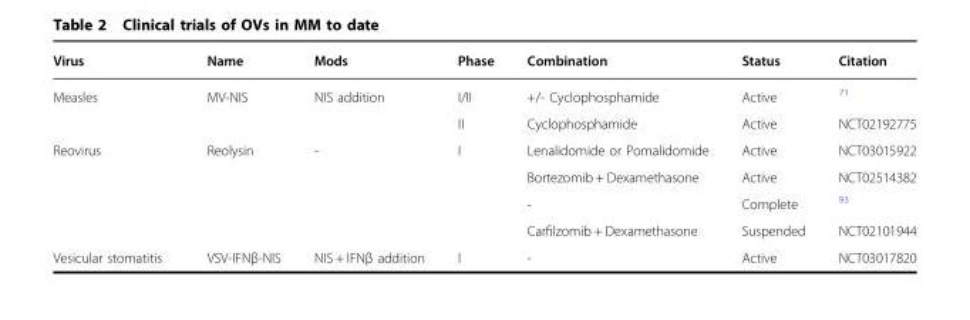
<table><thead><tr><td>Virus</td><td>Name</td><td>Mods</td><td>Phase</td><td>Combination</td><td>Status</td><td>Citation</td></tr></thead><tbody><tr><td rowspan="2">Measles</td><td>MV-NIS</td><td>NIS addition</td><td>I/II</td><td>+/- Cyclophosphamide</td><td>Active</td><td><sup>71</sup></td></tr><tr><td></td><td></td><td>II</td><td>Cyclophosphamide</td><td>Active</td><td>NCT02192775</td></tr><tr><td rowspan="4">Reovirus</td><td>Reolysin</td><td>-</td><td>I</td><td>Lenalidomide or Pomalidomide</td><td>Active</td><td>NCT03015922</td></tr><tr><td></td><td></td><td></td><td>Bortezomib + Dexamethasone</td><td>Active</td><td>NCT02514382</td></tr><tr><td></td><td></td><td></td><td>-</td><td>Complete</td><td><sup>93</sup></td></tr><tr><td></td><td></td><td></td><td>Carfilzomib + Dexamethasone</td><td>Suspended</td><td>NCT02101944</td></tr><tr><td>Vesicular stomatitis</td><td>VSV-IFNβ-NIS</td><td>NIS + IFNβ addition</td><td>I</td><td>-</td><td>Active</td><td>NCT03017820</td></tr></tbody></table>